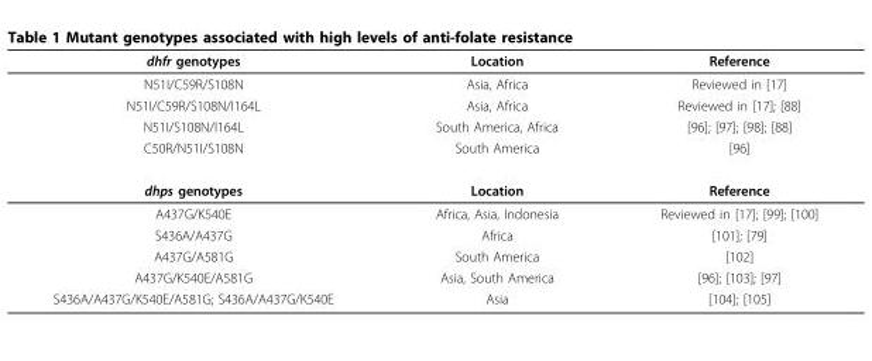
<table><thead><tr><td>dhfr genotypes</td><td>Location</td><td>Reference</td></tr></thead><tbody><tr><td>N51I/C59R/S108N</td><td>Asia, Africa</td><td>Reviewed in [17]</td></tr><tr><td>N51I/C59R/S108N/I164L</td><td>Asia, Africa</td><td>Reviewed in [17]; [88]</td></tr><tr><td>N51I/S108N/I164L</td><td>South America, Africa</td><td>[96]; [97]; [98]; [88]</td></tr><tr><td>C50R/N51I/S108N</td><td>South America</td><td>[96]</td></tr><tr><td>dhps genotypes</td><td>Location</td><td>Reference</td></tr><tr><td>A437G/K540E</td><td>Africa, Asia, Indonesia</td><td>Reviewed in [17]; [99]; [100]</td></tr><tr><td>S436A/A437G</td><td>Africa</td><td>[101]; [79]</td></tr><tr><td>A437G/A581G</td><td>South America</td><td>[102]</td></tr><tr><td>A437G/K540E/A581G</td><td>Asia, South America</td><td>[96]; [103]; [97]</td></tr><tr><td>S436A/A437G/K540E/A581G; S436A/A437G/K540E</td><td>Asia</td><td>[104]; [105]</td></tr></tbody></table>